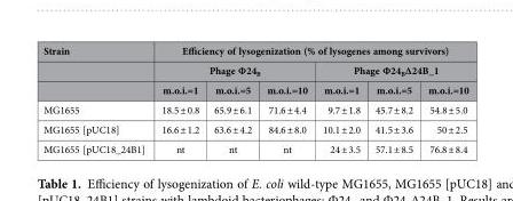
<table><thead><tr><td rowspan="3">Strain</td><td colspan="6">Efficiency of lysogenization (% of lysogenes among survivors)</td></tr><tr><td colspan="3">Phage Φ24<sub>B</sub></td><td colspan="3">Phage Φ24<sub>B</sub>∆24B_1</td></tr><tr><td>m.o.i.=1</td><td>m.o.i.=5</td><td>m.o.i.=10</td><td>m.o.i.=1</td><td>m.o.i.=5</td><td>m.o.i.=10</td></tr></thead><tbody><tr><td>MG1655</td><td>18.5 ± 0.8</td><td>65.9 ± 6.1</td><td>71.6 ± 4.4</td><td>9.7 ± 1.8</td><td>45.7 ± 8.2</td><td>54.8 ± 5.0</td></tr><tr><td>MG1655 [pUC18]</td><td>16.6 ± 1.2</td><td>63.6 ± 4.2</td><td>84.6 ± 8.0</td><td>10.1 ± 2.0</td><td>41.5 ± 3.6</td><td>50 ± 2.5</td></tr><tr><td>MG1655 [pUC18_24B1]</td><td>nt</td><td>nt</td><td>nt</td><td>24 ± 3.5</td><td>57.1 ± 8.5</td><td>76.8 ± 8.4</td></tr></tbody></table>